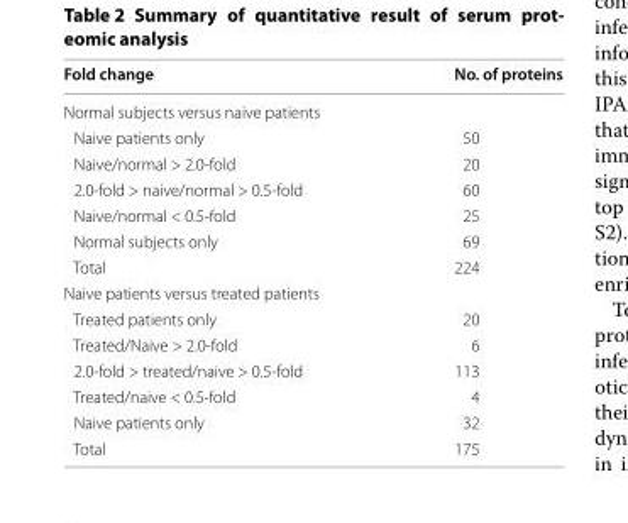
<table><thead><tr><td>Fold change</td><td>No. of proteins</td></tr></thead><tbody><tr><td colspan="2">Normal subjects versus naive patients</td></tr><tr><td>Naive patients only</td><td>50</td></tr><tr><td>Naive/normal &gt; 2.0‑fold</td><td>20</td></tr><tr><td>2.0‑fold &gt; naive/normal &gt; 0.5‑fold</td><td>60</td></tr><tr><td>Naive/normal &lt; 0.5‑fold</td><td>25</td></tr><tr><td>Normal subjects only</td><td>69</td></tr><tr><td>Total</td><td>224</td></tr><tr><td colspan="2">Naive patients versus treated patients</td></tr><tr><td>Treated patients only</td><td>20</td></tr><tr><td>Treated/Naive &gt; 2.0‑fold</td><td>6</td></tr><tr><td>2.0‑fold &gt; treated/naive &gt; 0.5‑fold</td><td>113</td></tr><tr><td>Treated/naive &lt; 0.5‑fold</td><td>4</td></tr><tr><td>Naive patients only</td><td>32</td></tr><tr><td>Total</td><td>175</td></tr></tbody></table>